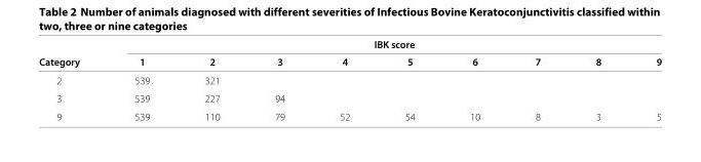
<table><thead><tr><td rowspan="2">Category</td><td colspan="9">IBK score</td></tr><tr><td>1</td><td>2</td><td>3</td><td>4</td><td>5</td><td>6</td><td>7</td><td>8</td><td>9</td></tr></thead><tbody><tr><td>2</td><td>539</td><td>321</td><td></td><td></td><td></td><td></td><td></td><td></td><td></td></tr><tr><td>3</td><td>539</td><td>227</td><td>94</td><td></td><td></td><td></td><td></td><td></td><td></td></tr><tr><td>9</td><td>539</td><td>110</td><td>79</td><td>52</td><td>54</td><td>10</td><td>8</td><td>3</td><td>5</td></tr></tbody></table>